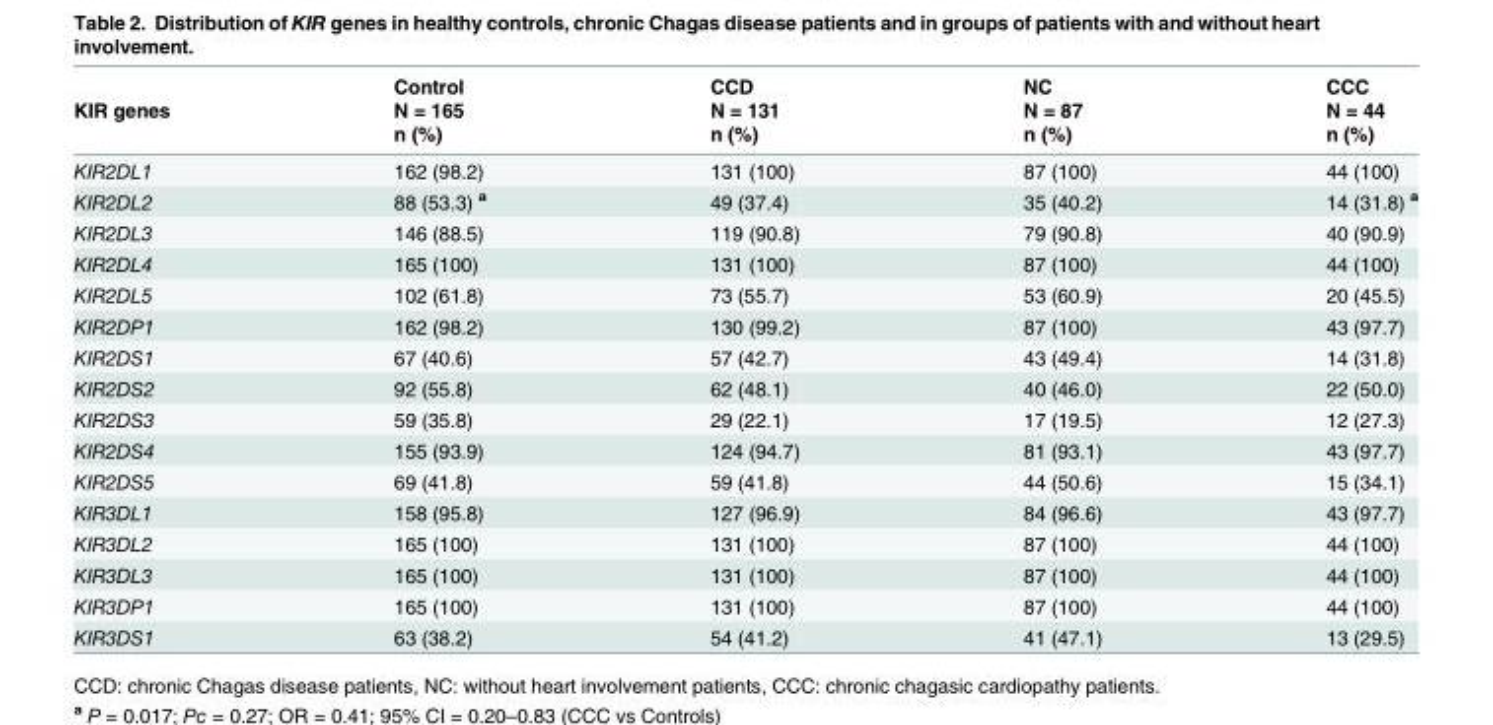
<table><thead><tr><td rowspan="3">KIR genes</td><td rowspan="3">Control N = 165 n (%)</td><td rowspan="3">CCD N = 131 n (%)</td><td rowspan="3">NC N = 87 n (%)</td><td rowspan="3">CCC N = 44 n (%)</td></tr><tr></tr><tr></tr></thead><tbody><tr><td>KIR2DL1</td><td>162 (98.2)</td><td>131 (100)</td><td>87 (100)</td><td>44 (100)</td></tr><tr><td>KIR2DL2</td><td>88 (53.3) <sup>a</sup></td><td>49 (37.4)</td><td>35 (40.2)</td><td>14 (31.8) <sup>a</sup></td></tr><tr><td>KIR2DL3</td><td>146 (88.5)</td><td>119 (90.8)</td><td>79 (90.8)</td><td>40 (90.9)</td></tr><tr><td>KIR2DL4</td><td>165 (100)</td><td>131 (100)</td><td>87 (100)</td><td>44 (100)</td></tr><tr><td>KIR2DL5</td><td>102 (61.8)</td><td>73 (55.7)</td><td>53 (60.9)</td><td>20 (45.5)</td></tr><tr><td>KIR2DP1</td><td>162 (98.2)</td><td>130 (99.2)</td><td>87 (100)</td><td>43 (97.7)</td></tr><tr><td>KIR2DS1</td><td>67 (40.6)</td><td>57 (42.7)</td><td>43 (49.4)</td><td>14 (31.8)</td></tr><tr><td>KIR2DS2</td><td>92 (55.8)</td><td>62 (48.1)</td><td>40 (46.0)</td><td>22 (50.0)</td></tr><tr><td>KIR2DS3</td><td>59 (35.8)</td><td>29 (22.1)</td><td>17 (19.5)</td><td>12 (27.3)</td></tr><tr><td>KIR2DS4</td><td>155 (93.9)</td><td>124 (94.7)</td><td>81 (93.1)</td><td>43 (97.7)</td></tr><tr><td>KIR2DS5</td><td>69 (41.8)</td><td>59 (41.8)</td><td>44 (50.6)</td><td>15 (34.1)</td></tr><tr><td>KIR3DL1</td><td>158 (95.8)</td><td>127 (96.9)</td><td>84 (96.6)</td><td>43 (97.7)</td></tr><tr><td>KIR3DL2</td><td>165 (100)</td><td>131 (100)</td><td>87 (100)</td><td>44 (100)</td></tr><tr><td>KIR3DL3</td><td>165 (100)</td><td>131 (100)</td><td>87 (100)</td><td>44 (100)</td></tr><tr><td>KIR3DP1</td><td>165 (100)</td><td>131 (100)</td><td>87 (100)</td><td>44 (100)</td></tr><tr><td>KIR3DS1</td><td>63 (38.2)</td><td>54 (41.2)</td><td>41 (47.1)</td><td>13 (29.5)</td></tr></tbody></table>